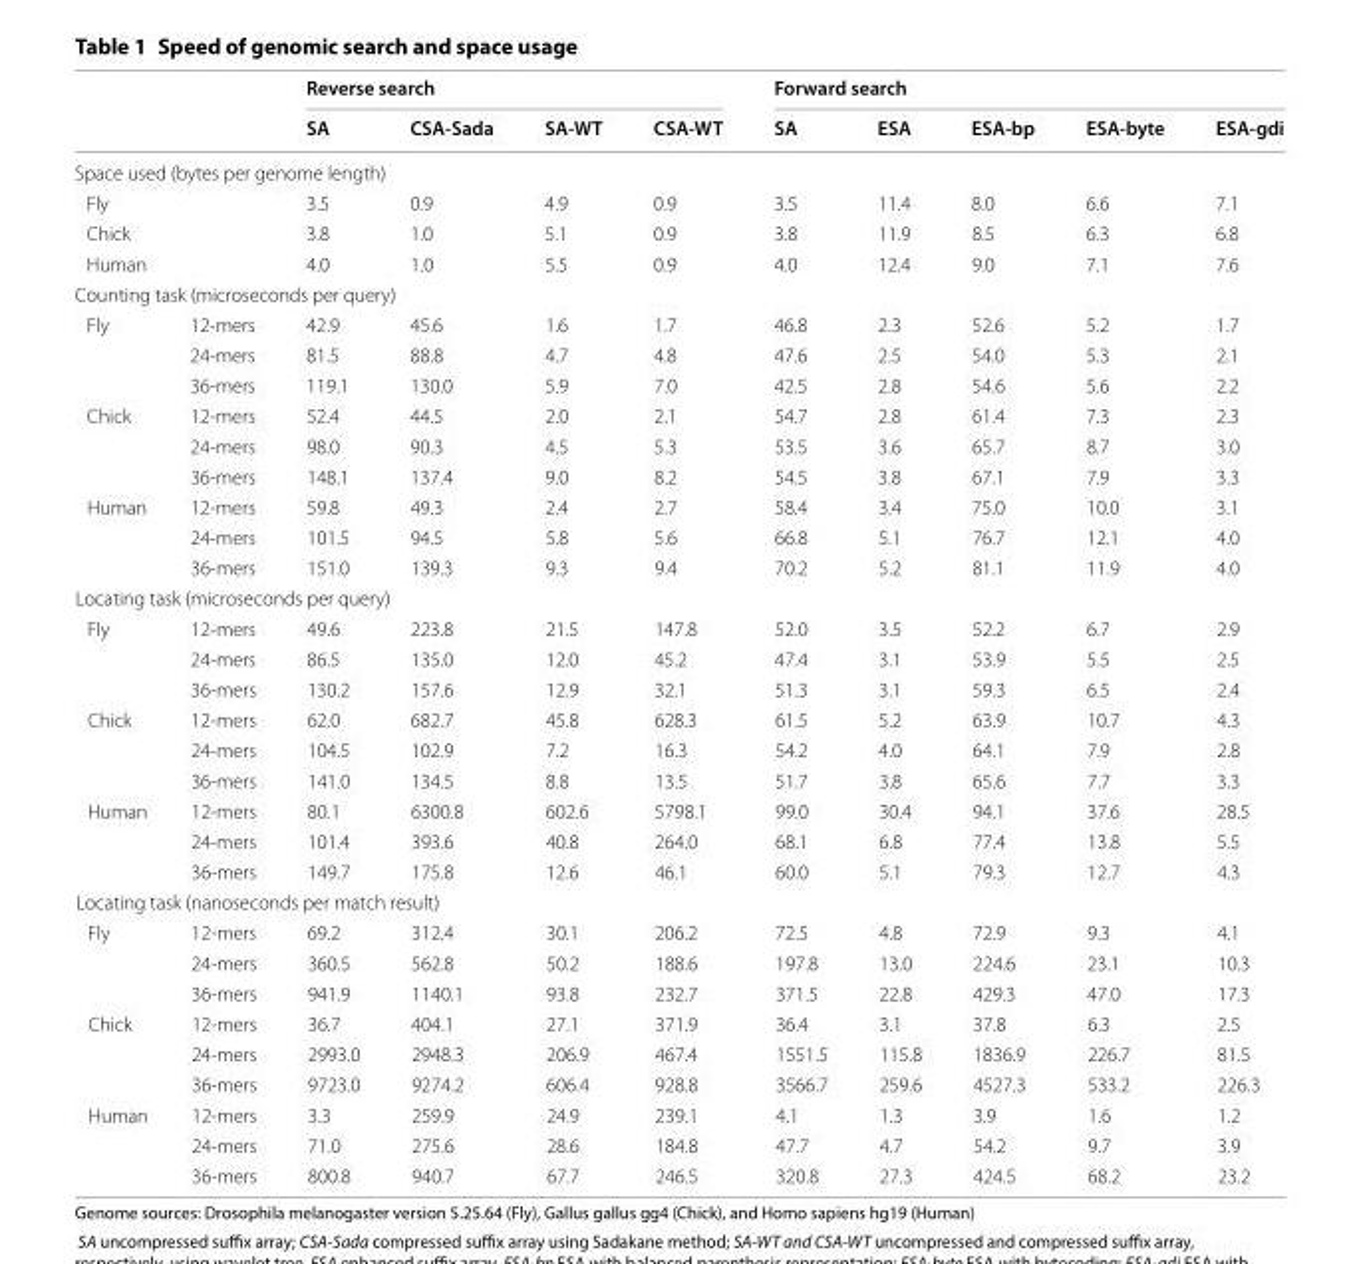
<table><thead><tr><td rowspan="2"></td><td rowspan="2"></td><td colspan="4">Reverse search</td><td colspan="5">Forward search</td></tr><tr><td>SA</td><td>CSA-Sada</td><td>SA-WT</td><td>CSA-WT</td><td>SA</td><td>ESA</td><td>ESA-bp</td><td>ESA-byte</td><td>ESA-gdi</td></tr></thead><tbody><tr><td colspan="11">Space used (bytes per genome length)</td></tr><tr><td colspan="2">Fly</td><td>3.5</td><td>0.9</td><td>4.9</td><td>0.9</td><td>3.5</td><td>11.4</td><td>8.0</td><td>6.6</td><td>7.1</td></tr><tr><td colspan="2">Chick</td><td>3.8</td><td>1.0</td><td>5.1</td><td>0.9</td><td>3.8</td><td>11.9</td><td>8.5</td><td>6.3</td><td>6.8</td></tr><tr><td colspan="2">Human</td><td>4.0</td><td>1.0</td><td>5.5</td><td>0.9</td><td>4.0</td><td>12.4</td><td>9.0</td><td>7.1</td><td>7.6</td></tr><tr><td colspan="11">Counting task (microseconds per query)</td></tr><tr><td rowspan="3">Fly</td><td>12-mers</td><td>42.9</td><td>45.6</td><td>1.6</td><td>1.7</td><td>46.8</td><td>2.3</td><td>52.6</td><td>5.2</td><td>1.7</td></tr><tr><td>24-mers</td><td>81.5</td><td>88.8</td><td>4.7</td><td>4.8</td><td>47.6</td><td>2.5</td><td>54.0</td><td>5.3</td><td>2.1</td></tr><tr><td>36-mers</td><td>119.1</td><td>130.0</td><td>5.9</td><td>7.0</td><td>42.5</td><td>2.8</td><td>54.6</td><td>5.6</td><td>2.2</td></tr><tr><td rowspan="3">Chick</td><td>12-mers</td><td>52.4</td><td>44.5</td><td>2.0</td><td>2.1</td><td>54.7</td><td>2.8</td><td>61.4</td><td>7.3</td><td>2.3</td></tr><tr><td>24-mers</td><td>98.0</td><td>90.3</td><td>4.5</td><td>5.3</td><td>53.5</td><td>3.6</td><td>65.7</td><td>8.7</td><td>3.0</td></tr><tr><td>36-mers</td><td>148.1</td><td>137.4</td><td>9.0</td><td>8.2</td><td>54.5</td><td>3.8</td><td>67.1</td><td>7.9</td><td>3.3</td></tr><tr><td rowspan="3">Human</td><td>12-mers</td><td>59.8</td><td>49.3</td><td>2.4</td><td>2.7</td><td>58.4</td><td>3.4</td><td>75.0</td><td>10.0</td><td>3.1</td></tr><tr><td>24-mers</td><td>101.5</td><td>94.5</td><td>5.8</td><td>5.6</td><td>66.8</td><td>5.1</td><td>76.7</td><td>12.1</td><td>4.0</td></tr><tr><td>36-mers</td><td>151.0</td><td>139.3</td><td>9.3</td><td>9.4</td><td>70.2</td><td>5.2</td><td>81.1</td><td>11.9</td><td>4.0</td></tr><tr><td colspan="11">Locating task (microseconds per query)</td></tr><tr><td rowspan="3">Fly</td><td>12-mers</td><td>49.6</td><td>223.8</td><td>21.5</td><td>147.8</td><td>52.0</td><td>3.5</td><td>52.2</td><td>6.7</td><td>2.9</td></tr><tr><td>24-mers</td><td>86.5</td><td>135.0</td><td>12.0</td><td>45.2</td><td>47.4</td><td>3.1</td><td>53.9</td><td>5.5</td><td>2.5</td></tr><tr><td>36-mers</td><td>130.2</td><td>157.6</td><td>12.9</td><td>32.1</td><td>51.3</td><td>3.1</td><td>59.3</td><td>6.5</td><td>2.4</td></tr><tr><td rowspan="3">Chick</td><td>12-mers</td><td>62.0</td><td>682.7</td><td>45.8</td><td>628.3</td><td>61.5</td><td>5.2</td><td>63.9</td><td>10.7</td><td>4.3</td></tr><tr><td>24-mers</td><td>104.5</td><td>102.9</td><td>7.2</td><td>16.3</td><td>54.2</td><td>4.0</td><td>64.1</td><td>7.9</td><td>2.8</td></tr><tr><td>36-mers</td><td>141.0</td><td>134.5</td><td>8.8</td><td>13.5</td><td>51.7</td><td>3.8</td><td>65.6</td><td>7.7</td><td>3.3</td></tr><tr><td rowspan="3">Human</td><td>12-mers</td><td>80.1</td><td>6300.8</td><td>602.6</td><td>5798.1</td><td>99.0</td><td>30.4</td><td>94.1</td><td>37.6</td><td>28.5</td></tr><tr><td>24-mers</td><td>101.4</td><td>393.6</td><td>40.8</td><td>264.0</td><td>68.1</td><td>6.8</td><td>77.4</td><td>13.8</td><td>5.5</td></tr><tr><td>36-mers</td><td>149.7</td><td>175.8</td><td>12.6</td><td>46.1</td><td>60.0</td><td>5.1</td><td>79.3</td><td>12.7</td><td>4.3</td></tr><tr><td colspan="11">Locating task (nanoseconds per match result)</td></tr><tr><td rowspan="3">Fly</td><td>12-mers</td><td>69.2</td><td>312.4</td><td>30.1</td><td>206.2</td><td>72.5</td><td>4.8</td><td>72.9</td><td>9.3</td><td>4.1</td></tr><tr><td>24-mers</td><td>360.5</td><td>562.8</td><td>50.2</td><td>188.6</td><td>197.8</td><td>13.0</td><td>224.6</td><td>23.1</td><td>10.3</td></tr><tr><td>36-mers</td><td>941.9</td><td>1140.1</td><td>93.8</td><td>232.7</td><td>371.5</td><td>22.8</td><td>429.3</td><td>47.0</td><td>17.3</td></tr><tr><td rowspan="3">Chick</td><td>12-mers</td><td>36.7</td><td>404.1</td><td>27.1</td><td>371.9</td><td>36.4</td><td>3.1</td><td>37.8</td><td>6.3</td><td>2.5</td></tr><tr><td>24-mers</td><td>2993.0</td><td>2948.3</td><td>206.9</td><td>467.4</td><td>1551.5</td><td>115.8</td><td>1836.9</td><td>226.7</td><td>81.5</td></tr><tr><td>36-mers</td><td>9723.0</td><td>9274.2</td><td>606.4</td><td>928.8</td><td>3566.7</td><td>259.6</td><td>4527.3</td><td>533.2</td><td>226.3</td></tr><tr><td rowspan="3">Human</td><td>12-mers</td><td>3.3</td><td>259.9</td><td>24.9</td><td>239.1</td><td>4.1</td><td>1.3</td><td>3.9</td><td>1.6</td><td>1.2</td></tr><tr><td>24-mers</td><td>71.0</td><td>275.6</td><td>28.6</td><td>184.8</td><td>47.7</td><td>4.7</td><td>54.2</td><td>9.7</td><td>3.9</td></tr><tr><td>36-mers</td><td>800.8</td><td>940.7</td><td>67.7</td><td>246.5</td><td>320.8</td><td>27.3</td><td>424.5</td><td>68.2</td><td>23.2</td></tr></tbody></table>